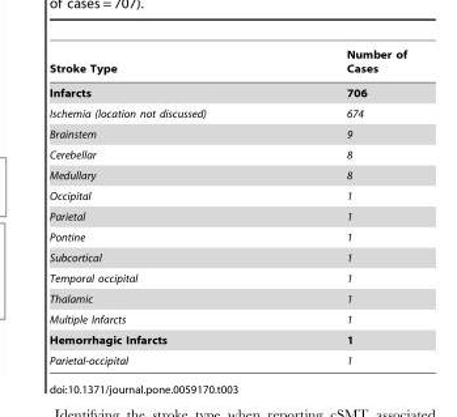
<table><thead><tr><td>Stroke Type</td><td>Number of Cases</td></tr></thead><tbody><tr><td>Infarcts</td><td>706</td></tr><tr><td>Ischemia (location not discussed)</td><td>674</td></tr><tr><td>Brainstem</td><td>9</td></tr><tr><td>Cerebellar</td><td>8</td></tr><tr><td>Medullary</td><td>8</td></tr><tr><td>Occipital</td><td>1</td></tr><tr><td>Parietal</td><td>1</td></tr><tr><td>Pontine</td><td>1</td></tr><tr><td>Subcortical</td><td>1</td></tr><tr><td>Temporal occipital</td><td>1</td></tr><tr><td>Thalamic</td><td>1</td></tr><tr><td>Multiple Infarcts</td><td>1</td></tr><tr><td>Hemorrhagic Infarcts</td><td>1</td></tr><tr><td>Parietal-occipital</td><td>1</td></tr></tbody></table>